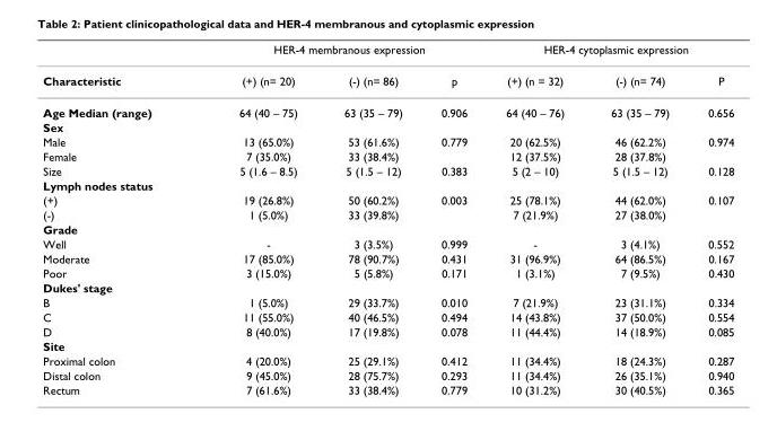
<table><thead><tr><td rowspan="2">Characteristic</td><td colspan="3">HER-4 membranous expression</td><td colspan="3">HER-4 cytoplasmic expression</td></tr><tr><td>(+) (n= 20)</td><td>(-) (n= 86)</td><td>p</td><td>(+) (n = 32)</td><td>(-) (n= 74)</td><td>P</td></tr></thead><tbody><tr><td>Age Median (range)</td><td>64 (40 – 75)</td><td>63 (35 – 79)</td><td>0.906</td><td>64 (40 – 76)</td><td>63 (35 – 79)</td><td>0.656</td></tr><tr><td colspan="7">Sex</td></tr><tr><td>Male</td><td>13 (65.0%)</td><td>53 (61.6%)</td><td>0.779</td><td>20 (62.5%)</td><td>46 (62.2%)</td><td>0.974</td></tr><tr><td>Female</td><td>7 (35.0%)</td><td>33 (38.4%)</td><td></td><td>12 (37.5%)</td><td>28 (37.8%)</td><td></td></tr><tr><td>Size</td><td>5 (1.6 – 8.5)</td><td>5 (1.5 – 12)</td><td>0.383</td><td>5 (2 – 10)</td><td>5 (1.5 – 12)</td><td>0.128</td></tr><tr><td colspan="7">Lymph nodes status</td></tr><tr><td>(+)</td><td>19 (26.8%)</td><td>50 (60.2%)</td><td>0.003</td><td>25 (78.1%)</td><td>44 (62.0%)</td><td>0.107</td></tr><tr><td>(-)</td><td>1 (5.0%)</td><td>33 (39.8%)</td><td></td><td>7 (21.9%)</td><td>27 (38.0%)</td><td></td></tr><tr><td colspan="7">Grade</td></tr><tr><td>Well</td><td>-</td><td>3 (3.5%)</td><td>0.999</td><td>-</td><td>3 (4.1%)</td><td>0.552</td></tr><tr><td>Moderate</td><td>17 (85.0%)</td><td>78 (90.7%)</td><td>0.431</td><td>31 (96.9%)</td><td>64 (86.5%)</td><td>0.167</td></tr><tr><td>Poor</td><td>3 (15.0%)</td><td>5 (5.8%)</td><td>0.171</td><td>1 (3.1%)</td><td>7 (9.5%)</td><td>0.430</td></tr><tr><td colspan="7">Dukes&#x27; stage</td></tr><tr><td>B</td><td>1 (5.0%)</td><td>29 (33.7%)</td><td>0.010</td><td>7 (21.9%)</td><td>23 (31.1%)</td><td>0.334</td></tr><tr><td>C</td><td>11 (55.0%)</td><td>40 (46.5%)</td><td>0.494</td><td>14 (43.8%)</td><td>37 (50.0%)</td><td>0.554</td></tr><tr><td>D</td><td>8 (40.0%)</td><td>17 (19.8%)</td><td>0.078</td><td>11 (44.4%)</td><td>14 (18.9%)</td><td>0.085</td></tr><tr><td colspan="7">Site</td></tr><tr><td>Proximal colon</td><td>4 (20.0%)</td><td>25 (29.1%)</td><td>0.412</td><td>11 (34.4%)</td><td>18 (24.3%)</td><td>0.287</td></tr><tr><td>Distal colon</td><td>9 (45.0%)</td><td>28 (75.7%)</td><td>0.293</td><td>11 (34.4%)</td><td>26 (35.1%)</td><td>0.940</td></tr><tr><td>Rectum</td><td>7 (61.6%)</td><td>33 (38.4%)</td><td>0.779</td><td>10 (31.2%)</td><td>30 (40.5%)</td><td>0.365</td></tr></tbody></table>